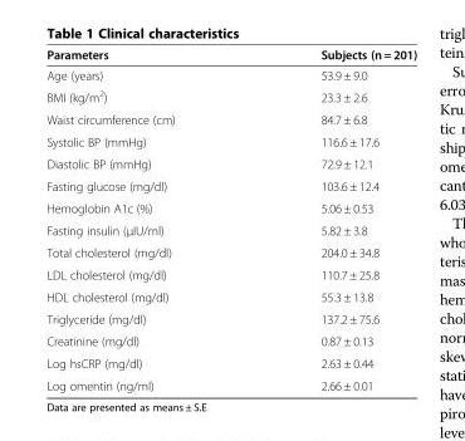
<table><thead><tr><td>Parameters</td><td>Subjects (n = 201)</td></tr></thead><tbody><tr><td>Age (years)</td><td>53.9 ± 9.0</td></tr><tr><td>BMI (kg/m<sup>2</sup>)</td><td>23.3 ± 2.6</td></tr><tr><td>Waist circumference (cm)</td><td>84.7 ± 6.8</td></tr><tr><td>Systolic BP (mmHg)</td><td>116.6 ± 17.6</td></tr><tr><td>Diastolic BP (mmHg)</td><td>72.9 ± 12.1</td></tr><tr><td>Fasting glucose (mg/dl)</td><td>103.6 ± 12.4</td></tr><tr><td>Hemoglobin A1c (%)</td><td>5.06 ± 0.53</td></tr><tr><td>Fasting insulin (μIU/ml)</td><td>5.82 ± 3.8</td></tr><tr><td>Total cholesterol (mg/dl)</td><td>204.0 ± 34.8</td></tr><tr><td>LDL cholesterol (mg/dl)</td><td>110.7 ± 25.8</td></tr><tr><td>HDL cholesterol (mg/dl)</td><td>55.3 ± 13.8</td></tr><tr><td>Triglyceride (mg/dl)</td><td>137.2 ± 75.6</td></tr><tr><td>Creatinine (mg/dl)</td><td>0.87 ± 0.13</td></tr><tr><td>Log hsCRP (mg/dl)</td><td>2.63 ± 0.44</td></tr><tr><td>Log omentin (ng/ml)</td><td>2.66 ± 0.01</td></tr></tbody></table>